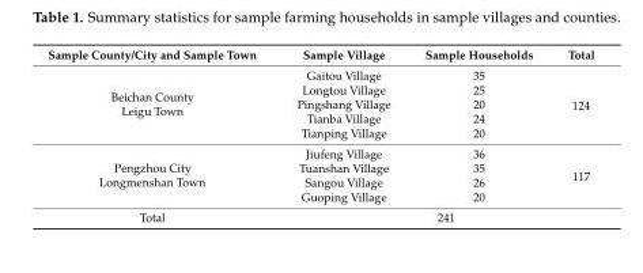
<table><thead><tr><td>Sample County/City and Sample Town</td><td>Sample Village</td><td>Sample Households</td><td>Total</td></tr></thead><tbody><tr><td rowspan="5">Beichan County Leigu Town</td><td>Gaitou Village</td><td>35</td><td rowspan="5">124</td></tr><tr><td>Longtou Village</td><td>25</td></tr><tr><td>Pingshang Village</td><td>20</td></tr><tr><td>Tianba Village</td><td>24</td></tr><tr><td>Tianping Village</td><td>20</td></tr><tr><td rowspan="4">Pengzhou City Longmenshan Town</td><td>Jiufeng Village</td><td>36</td><td rowspan="4">117</td></tr><tr><td>Tuanshan Village</td><td>35</td></tr><tr><td>Sangou Village</td><td>26</td></tr><tr><td>Guoping Village</td><td>20</td></tr><tr><td>Total</td><td colspan="3">241</td></tr></tbody></table>